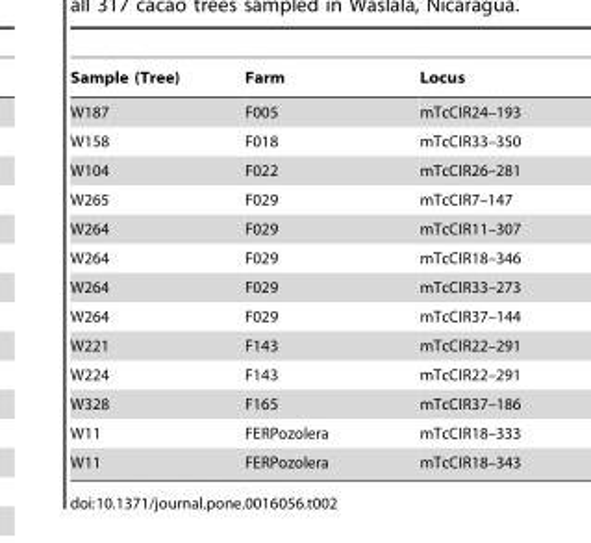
<table><thead><tr><td>Sample (Tree)</td><td>Farm</td><td>Locus</td></tr></thead><tbody><tr><td>W187</td><td>F005</td><td>mTcCIR24–193</td></tr><tr><td>W158</td><td>F018</td><td>mTcCIR33–350</td></tr><tr><td>W104</td><td>F022</td><td>mTcCIR26–281</td></tr><tr><td>W265</td><td>F029</td><td>mTcCIR7–147</td></tr><tr><td>W264</td><td>F029</td><td>mTcCIR11–307</td></tr><tr><td>W264</td><td>F029</td><td>mTcCIR18–346</td></tr><tr><td>W264</td><td>F029</td><td>mTcCIR33–273</td></tr><tr><td>W264</td><td>F029</td><td>mTcCIR37–144</td></tr><tr><td>W221</td><td>F143</td><td>mTcCIR22–291</td></tr><tr><td>W224</td><td>F143</td><td>mTcCIR22–291</td></tr><tr><td>W328</td><td>F165</td><td>mTcCIR37–186</td></tr><tr><td>W11</td><td>FERPozolera</td><td>mTcCIR18–333</td></tr><tr><td>W11</td><td>FERPozolera</td><td>mTcCIR18–343</td></tr></tbody></table>